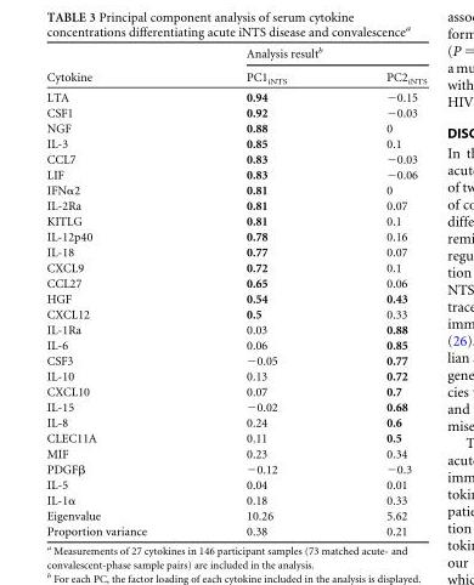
<table><thead><tr><td rowspan="2">Cytokine</td><td colspan="2">Analysis result<sup>b</sup></td></tr><tr><td>PC1<sub>iNTS</sub></td><td>PC2<sub>iNTS</sub></td></tr></thead><tbody><tr><td>LTA</td><td>0.94</td><td>−0.15</td></tr><tr><td>CSF1</td><td>0.92</td><td>−0.03</td></tr><tr><td>NGF</td><td>0.88</td><td>0</td></tr><tr><td>IL-3</td><td>0.85</td><td>0.1</td></tr><tr><td>CCL7</td><td>0.83</td><td>−0.03</td></tr><tr><td>LIF</td><td>0.83</td><td>−0.06</td></tr><tr><td>IFNα2</td><td>0.81</td><td>0</td></tr><tr><td>IL-2Ra</td><td>0.81</td><td>0.07</td></tr><tr><td>KITLG</td><td>0.81</td><td>0.1</td></tr><tr><td>IL-12p40</td><td>0.78</td><td>0.16</td></tr><tr><td>IL-18</td><td>0.77</td><td>0.07</td></tr><tr><td>CXCL9</td><td>0.72</td><td>0.1</td></tr><tr><td>CCL27</td><td>0.65</td><td>0.06</td></tr><tr><td>HGF</td><td>0.54</td><td>0.43</td></tr><tr><td>CXCL12</td><td>0.5</td><td>0.33</td></tr><tr><td>IL-1Ra</td><td>0.03</td><td>0.88</td></tr><tr><td>IL-6</td><td>0.06</td><td>0.85</td></tr><tr><td>CSF3</td><td>−0.05</td><td>0.77</td></tr><tr><td>IL-10</td><td>0.13</td><td>0.72</td></tr><tr><td>CXCL10</td><td>0.07</td><td>0.7</td></tr><tr><td>IL-15</td><td>−0.02</td><td>0.68</td></tr><tr><td>IL-8</td><td>0.24</td><td>0.6</td></tr><tr><td>CLEC11A</td><td>0.11</td><td>0.5</td></tr><tr><td>MIF</td><td>0.23</td><td>0.34</td></tr><tr><td>PDGFβ</td><td>−0.12</td><td>−0.3</td></tr><tr><td>IL-5</td><td>0.04</td><td>0.01</td></tr><tr><td>IL-1α</td><td>0.18</td><td>0.33</td></tr><tr><td>Eigenvalue</td><td>10.26</td><td>5.62</td></tr><tr><td>Proportion variance</td><td>0.38</td><td>0.21</td></tr></tbody></table>